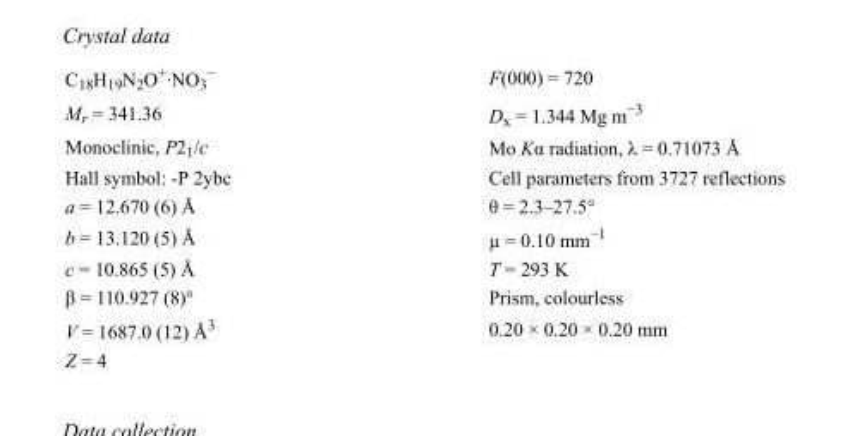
<table><tbody><tr><td>C<sub>18</sub>H<sub>19</sub>N<sub>2</sub>O<sup>+</sup>·NO<sub>3</sub> <sup>−</sup></td><td>F(000) = 720</td></tr><tr><td>M<sub>r</sub> = 341.36</td><td>D<sub>x</sub> = 1.344 Mg m<sup>−3</sup></td></tr><tr><td>Monoclinic, P2<sub>1</sub>/c</td><td>Mo Kα radiation, λ = 0.71073 Å</td></tr><tr><td>Hall symbol: -P 2ybc</td><td>Cell parameters from 3727 reflections</td></tr><tr><td>a = 12.670 (6) Å</td><td>θ = 2.3–27.5°</td></tr><tr><td>b = 13.120 (5) Å</td><td>µ = 0.10 mm<sup>−1</sup></td></tr><tr><td>c = 10.865 (5) Å</td><td>T = 293 K</td></tr><tr><td>β = 110.927 (8)°</td><td>Prism, colourless</td></tr><tr><td>V = 1687.0 (12) Å<sup>3</sup></td><td>0.20 × 0.20 × 0.20 mm</td></tr><tr><td>Z = 4</td><td></td></tr></tbody></table>